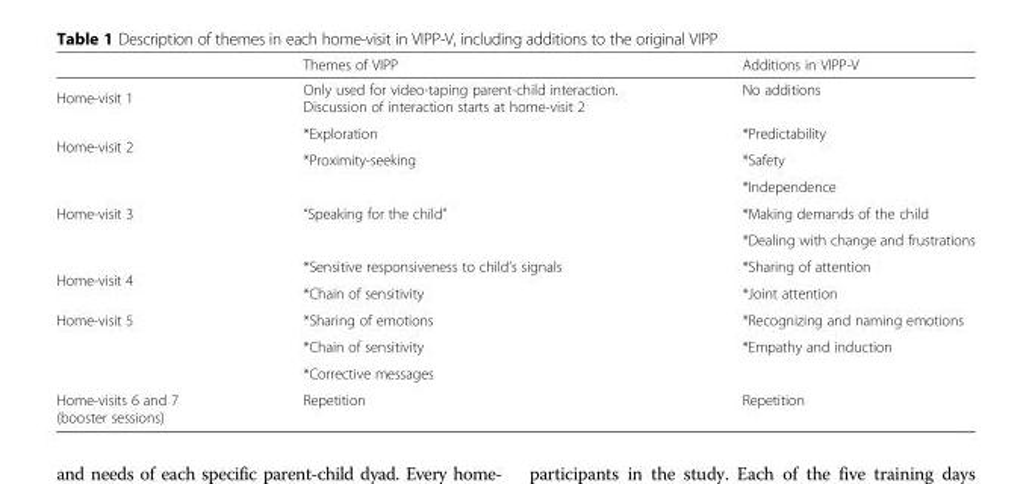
<table><thead><tr><td></td><td>Themes of VIPP</td><td>Additions in VIPP-V</td></tr></thead><tbody><tr><td>Home-visit 1</td><td>Only used for video-taping parent-child interaction. Discussion of interaction starts at home-visit 2</td><td>No additions</td></tr><tr><td rowspan="2">Home-visit 2</td><td>*Exploration</td><td>*Predictability</td></tr><tr><td>*Proximity-seeking</td><td>*Safety</td></tr><tr><td rowspan="3">Home-visit 3</td><td rowspan="3">“Speaking for the child”</td><td>*Independence</td></tr><tr><td>*Making demands of the child</td></tr><tr><td>*Dealing with change and frustrations</td></tr><tr><td rowspan="2">Home-visit 4</td><td>*Sensitive responsiveness to child’s signals</td><td>*Sharing of attention</td></tr><tr><td>*Chain of sensitivity</td><td>*Joint attention</td></tr><tr><td rowspan="3">Home-visit 5</td><td>*Sharing of emotions</td><td>*Recognizing and naming emotions</td></tr><tr><td>*Chain of sensitivity</td><td>*Empathy and induction</td></tr><tr><td>*Corrective messages</td><td></td></tr><tr><td>Home-visits 6 and 7 (booster sessions)</td><td>Repetition</td><td>Repetition</td></tr></tbody></table>